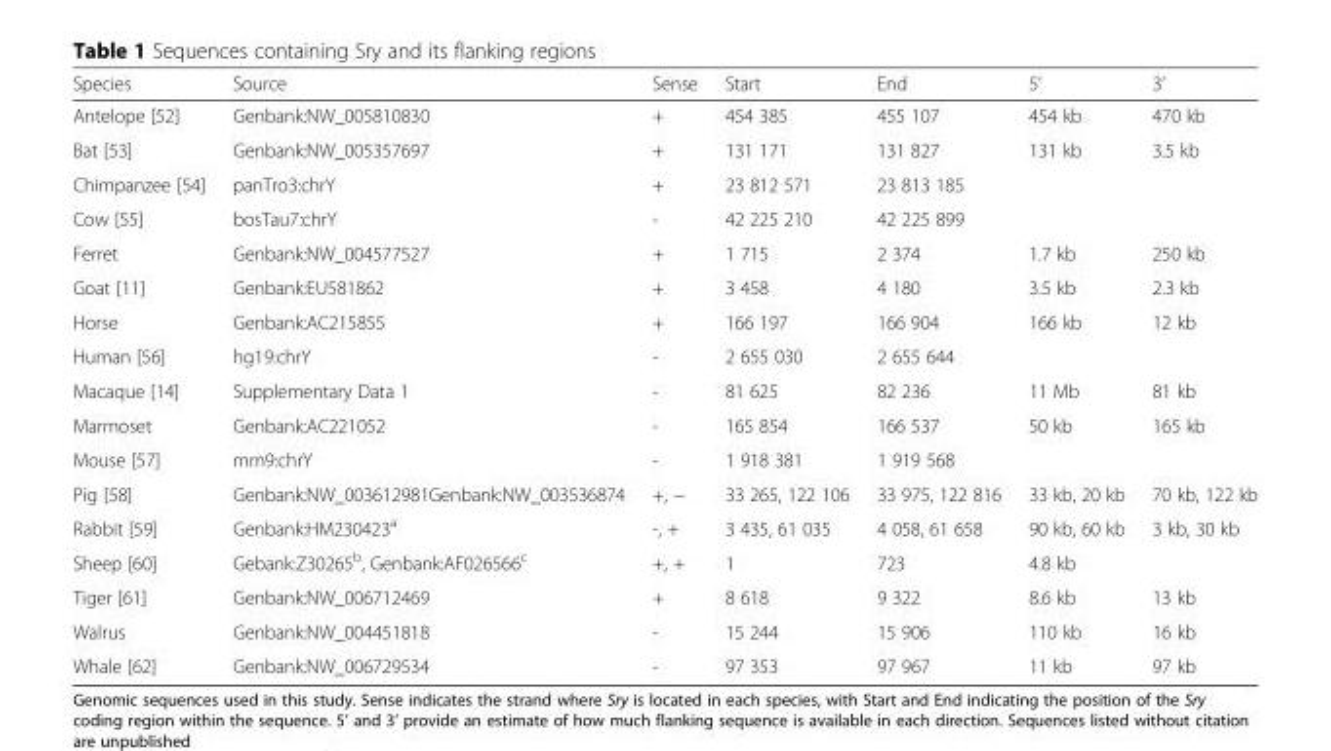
<table><thead><tr><td>Species</td><td>Source</td><td>Sense</td><td>Start</td><td>End</td><td>5’</td><td>3’</td></tr></thead><tbody><tr><td>Antelope [52]</td><td>Genbank:NW_005810830</td><td>+</td><td>454 385</td><td>455 107</td><td>454 kb</td><td>470 kb</td></tr><tr><td>Bat [53]</td><td>Genbank:NW_005357697</td><td>+</td><td>131 171</td><td>131 827</td><td>131 kb</td><td>3.5 kb</td></tr><tr><td>Chimpanzee [54]</td><td>panTro3:chrY</td><td>+</td><td>23 812 571</td><td>23 813 185</td><td></td><td></td></tr><tr><td>Cow [55]</td><td>bosTau7:chrY</td><td>-</td><td>42 225 210</td><td>42 225 899</td><td></td><td></td></tr><tr><td>Ferret</td><td>Genbank:NW_004577527</td><td>+</td><td>1 715</td><td>2 374</td><td>1.7 kb</td><td>250 kb</td></tr><tr><td>Goat [11]</td><td>Genbank:EU581862</td><td>+</td><td>3 458</td><td>4 180</td><td>3.5 kb</td><td>2.3 kb</td></tr><tr><td>Horse</td><td>Genbank:AC215855</td><td>+</td><td>166 197</td><td>166 904</td><td>166 kb</td><td>12 kb</td></tr><tr><td>Human [56]</td><td>hg19:chrY</td><td>-</td><td>2 655 030</td><td>2 655 644</td><td></td><td></td></tr><tr><td>Macaque [14]</td><td>Supplementary Data 1</td><td>-</td><td>81 625</td><td>82 236</td><td>11 Mb</td><td>81 kb</td></tr><tr><td>Marmoset</td><td>Genbank:AC221052</td><td>-</td><td>165 854</td><td>166 537</td><td>50 kb</td><td>165 kb</td></tr><tr><td>Mouse [57]</td><td>mm9:chrY</td><td>-</td><td>1 918 381</td><td>1 919 568</td><td></td><td></td></tr><tr><td>Pig [58]</td><td>Genbank:NW_003612981Genbank:NW_003536874</td><td>+, −</td><td>33 265, 122 106</td><td>33 975, 122 816</td><td>33 kb, 20 kb</td><td>70 kb, 122 kb</td></tr><tr><td>Rabbit [59]</td><td>Genbank:HM230423<sup>a</sup></td><td>-, +</td><td>3 435, 61 035</td><td>4 058, 61 658</td><td>90 kb, 60 kb</td><td>3 kb, 30 kb</td></tr><tr><td>Sheep [60]</td><td>Gebank:Z30265<sup>b</sup>, Genbank:AF026566<sup>c</sup></td><td>+, +</td><td>1</td><td>723</td><td>4.8 kb</td><td></td></tr><tr><td>Tiger [61]</td><td>Genbank:NW_006712469</td><td>+</td><td>8 618</td><td>9 322</td><td>8.6 kb</td><td>13 kb</td></tr><tr><td>Walrus</td><td>Genbank:NW_004451818</td><td>-</td><td>15 244</td><td>15 906</td><td>110 kb</td><td>16 kb</td></tr><tr><td>Whale [62]</td><td>Genbank:NW_006729534</td><td>-</td><td>97 353</td><td>97 967</td><td>11 kb</td><td>97 kb</td></tr></tbody></table>